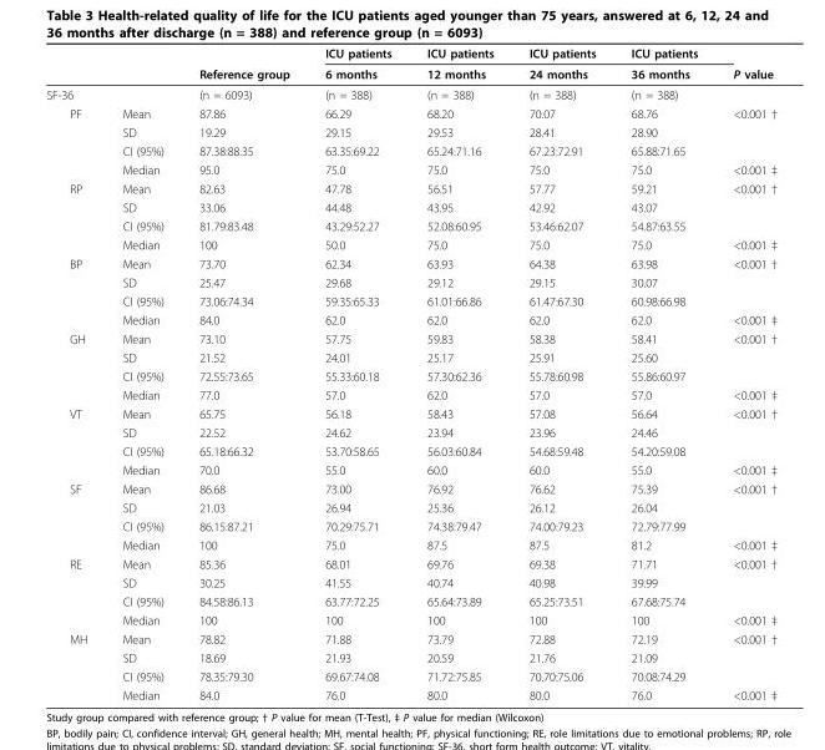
<table><thead><tr><td rowspan="2"></td><td rowspan="2"></td><td rowspan="2">Reference group</td><td rowspan="2">ICU patients 6 months</td><td rowspan="2">ICU patients 12 months</td><td rowspan="2">ICU patients 24 months</td><td rowspan="2">ICU patients 36 months</td><td rowspan="2">P value</td></tr><tr></tr></thead><tbody><tr><td>SF-36</td><td></td><td>(n = 6093)</td><td>(n = 388)</td><td>(n = 388)</td><td>(n = 388)</td><td>(n = 388)</td><td></td></tr><tr><td rowspan="4">PF</td><td>Mean</td><td>87.86</td><td>66.29</td><td>68.20</td><td>70.07</td><td>68.76</td><td>&lt;0.001 †</td></tr><tr><td>SD</td><td>19.29</td><td>29.15</td><td>29.53</td><td>28.41</td><td>28.90</td><td></td></tr><tr><td>CI (95%)</td><td>87.38:88.35</td><td>63.35:69.22</td><td>65.24:71.16</td><td>67.23:72.91</td><td>65.88:71.65</td><td></td></tr><tr><td>Median</td><td>95.0</td><td>75.0</td><td>75.0</td><td>75.0</td><td>75.0</td><td>&lt;0.001 ‡</td></tr><tr><td rowspan="4">RP</td><td>Mean</td><td>82.63</td><td>47.78</td><td>56.51</td><td>57.77</td><td>59.21</td><td>&lt;0.001 †</td></tr><tr><td>SD</td><td>33.06</td><td>44.48</td><td>43.95</td><td>42.92</td><td>43.07</td><td></td></tr><tr><td>CI (95%)</td><td>81.79:83.48</td><td>43.29:52.27</td><td>52.08:60.95</td><td>53.46:62.07</td><td>54.87:63.55</td><td></td></tr><tr><td>Median</td><td>100</td><td>50.0</td><td>75.0</td><td>75.0</td><td>75.0</td><td>&lt;0.001 ‡</td></tr><tr><td rowspan="4">BP</td><td>Mean</td><td>73.70</td><td>62.34</td><td>63.93</td><td>64.38</td><td>63.98</td><td>&lt;0.001 †</td></tr><tr><td>SD</td><td>25.47</td><td>29.68</td><td>29.12</td><td>29.15</td><td>30.07</td><td></td></tr><tr><td>CI (95%)</td><td>73.06:74.34</td><td>59.35:65.33</td><td>61.01:66.86</td><td>61.47:67.30</td><td>60.98:66.98</td><td></td></tr><tr><td>Median</td><td>84.0</td><td>62.0</td><td>62.0</td><td>62.0</td><td>62.0</td><td>&lt;0.001 ‡</td></tr><tr><td rowspan="4">GH</td><td>Mean</td><td>73.10</td><td>57.75</td><td>59.83</td><td>58.38</td><td>58.41</td><td>&lt;0.001 †</td></tr><tr><td>SD</td><td>21.52</td><td>24.01</td><td>25.17</td><td>25.91</td><td>25.60</td><td></td></tr><tr><td>CI (95%)</td><td>72.55:73.65</td><td>55.33:60.18</td><td>57.30:62.36</td><td>55.78:60.98</td><td>55.86:60.97</td><td></td></tr><tr><td>Median</td><td>77.0</td><td>57.0</td><td>62.0</td><td>57.0</td><td>57.0</td><td>&lt;0.001 ‡</td></tr><tr><td rowspan="4">VT</td><td>Mean</td><td>65.75</td><td>56.18</td><td>58.43</td><td>57.08</td><td>56.64</td><td>&lt;0.001 †</td></tr><tr><td>SD</td><td>22.52</td><td>24.62</td><td>23.94</td><td>23.96</td><td>24.46</td><td></td></tr><tr><td>CI (95%)</td><td>65.18:66.32</td><td>53.70:58.65</td><td>56.03:60.84</td><td>54.68:59.48</td><td>54.20:59.08</td><td></td></tr><tr><td>Median</td><td>70.0</td><td>55.0</td><td>60.0</td><td>60.0</td><td>55.0</td><td>&lt;0.001 ‡</td></tr><tr><td rowspan="4">SF</td><td>Mean</td><td>86.68</td><td>73.00</td><td>76.92</td><td>76.62</td><td>75.39</td><td>&lt;0.001 †</td></tr><tr><td>SD</td><td>21.03</td><td>26.94</td><td>25.36</td><td>26.12</td><td>26.04</td><td></td></tr><tr><td>CI (95%)</td><td>86.15:87.21</td><td>70.29:75.71</td><td>74.38:79.47</td><td>74.00:79.23</td><td>72.79:77.99</td><td></td></tr><tr><td>Median</td><td>100</td><td>75.0</td><td>87.5</td><td>87.5</td><td>81.2</td><td>&lt;0.001 ‡</td></tr><tr><td rowspan="4">RE</td><td>Mean</td><td>85.36</td><td>68.01</td><td>69.76</td><td>69.38</td><td>71.71</td><td>&lt;0.001 †</td></tr><tr><td>SD</td><td>30.25</td><td>41.55</td><td>40.74</td><td>40.98</td><td>39.99</td><td></td></tr><tr><td>CI (95%)</td><td>84.58:86.13</td><td>63.77:72.25</td><td>65.64:73.89</td><td>65.25:73.51</td><td>67.68:75.74</td><td></td></tr><tr><td>Median</td><td>100</td><td>100</td><td>100</td><td>100</td><td>100</td><td>&lt;0.001 ‡</td></tr><tr><td rowspan="4">MH</td><td>Mean</td><td>78.82</td><td>71.88</td><td>73.79</td><td>72.88</td><td>72.19</td><td>&lt;0.001 †</td></tr><tr><td>SD</td><td>18.69</td><td>21.93</td><td>20.59</td><td>21.76</td><td>21.09</td><td></td></tr><tr><td>CI (95%)</td><td>78.35:79.30</td><td>69.67:74.08</td><td>71.72:75.85</td><td>70.70:75.06</td><td>70.08:74.29</td><td></td></tr><tr><td>Median</td><td>84.0</td><td>76.0</td><td>80.0</td><td>80.0</td><td>76.0</td><td>&lt;0.001 ‡</td></tr></tbody></table>